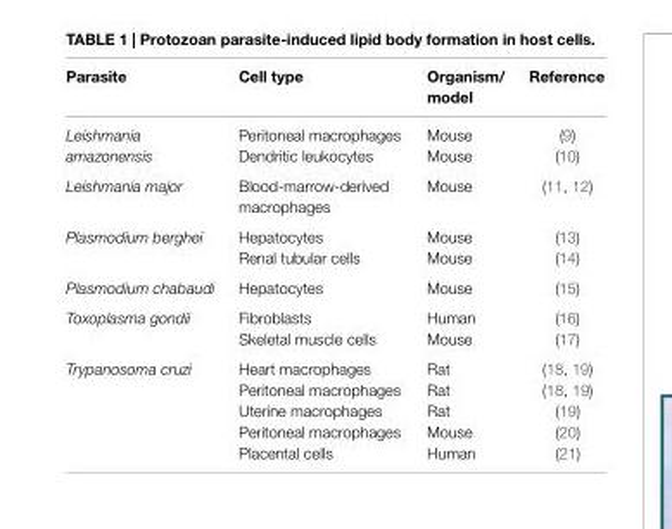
<table><thead><tr><td>Parasite</td><td>Cell type</td><td>Organism/ model</td><td>Reference</td></tr></thead><tbody><tr><td rowspan="2">Leishmania amazonensis</td><td>Peritoneal macrophages</td><td>Mouse</td><td>(9)</td></tr><tr><td>Dendritic leukocytes</td><td>Mouse</td><td>(10)</td></tr><tr><td>Leishmania major</td><td>Blood-marrow-derived macrophages</td><td>Mouse</td><td>(11, 12)</td></tr><tr><td rowspan="2">Plasmodium berghei</td><td>Hepatocytes</td><td>Mouse</td><td>(13)</td></tr><tr><td>Renal tubular cells</td><td>Mouse</td><td>(14)</td></tr><tr><td>Plasmodium chabaudi</td><td>Hepatocytes</td><td>Mouse</td><td>(15)</td></tr><tr><td rowspan="2">Toxoplasma gondii</td><td>Fibroblasts</td><td>Human</td><td>(16)</td></tr><tr><td>Skeletal muscle cells</td><td>Mouse</td><td>(17)</td></tr><tr><td rowspan="5">Trypanosoma cruzi</td><td>Heart macrophages</td><td>Rat</td><td>(18, 19)</td></tr><tr><td>Peritoneal macrophages</td><td>Rat</td><td>(18, 19)</td></tr><tr><td>Uterine macrophages</td><td>Rat</td><td>(19)</td></tr><tr><td>Peritoneal macrophages</td><td>Mouse</td><td>(20)</td></tr><tr><td>Placental cells</td><td>Human</td><td>(21)</td></tr></tbody></table>